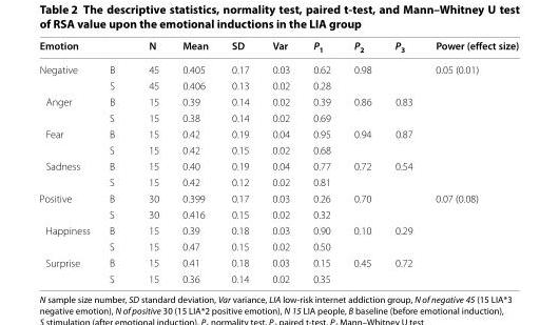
<table><thead><tr><td>Emotion</td><td></td><td>N</td><td>Mean</td><td>SD</td><td>Var</td><td>P<sub>1</sub></td><td>P<sub>2</sub></td><td>P<sub>3</sub></td><td>Power (effect size)</td></tr></thead><tbody><tr><td rowspan="2">Negative</td><td>B</td><td>45</td><td>0.405</td><td>0.17</td><td>0.03</td><td>0.62</td><td rowspan="2">0.98</td><td rowspan="2"></td><td rowspan="8">0.05 (0.01)</td></tr><tr><td>S</td><td>45</td><td>0.406</td><td>0.13</td><td>0.02</td><td>0.28</td></tr><tr><td rowspan="2">Anger</td><td>B</td><td>15</td><td>0.39</td><td>0.14</td><td>0.02</td><td>0.39</td><td rowspan="2">0.86</td><td rowspan="2">0.83</td></tr><tr><td>S</td><td>15</td><td>0.38</td><td>0.14</td><td>0.02</td><td>0.69</td></tr><tr><td rowspan="2">Fear</td><td>B</td><td>15</td><td>0.42</td><td>0.19</td><td>0.04</td><td>0.95</td><td rowspan="2">0.94</td><td rowspan="2">0.87</td></tr><tr><td>S</td><td>15</td><td>0.42</td><td>0.15</td><td>0.02</td><td>0.68</td></tr><tr><td rowspan="2">Sadness</td><td>B</td><td>15</td><td>0.40</td><td>0.19</td><td>0.04</td><td>0.77</td><td rowspan="2">0.72</td><td rowspan="2">0.54</td></tr><tr><td>S</td><td>15</td><td>0.42</td><td>0.12</td><td>0.02</td><td>0.81</td></tr><tr><td rowspan="2">Positive</td><td>B</td><td>30</td><td>0.399</td><td>0.17</td><td>0.03</td><td>0.26</td><td rowspan="2">0.70</td><td rowspan="2"></td><td rowspan="6">0.07 (0.08)</td></tr><tr><td>S</td><td>30</td><td>0.416</td><td>0.15</td><td>0.02</td><td>0.32</td></tr><tr><td rowspan="2">Happiness</td><td>B</td><td>15</td><td>0.39</td><td>0.18</td><td>0.03</td><td>0.90</td><td rowspan="2">0.10</td><td rowspan="2">0.29</td></tr><tr><td>S</td><td>15</td><td>0.47</td><td>0.15</td><td>0.02</td><td>0.50</td></tr><tr><td rowspan="2">Surprise</td><td>B</td><td>15</td><td>0.41</td><td>0.18</td><td>0.03</td><td>0.15</td><td rowspan="2">0.45</td><td rowspan="2">0.72</td></tr><tr><td>S</td><td>15</td><td>0.36</td><td>0.14</td><td>0.02</td><td>0.35</td></tr></tbody></table>